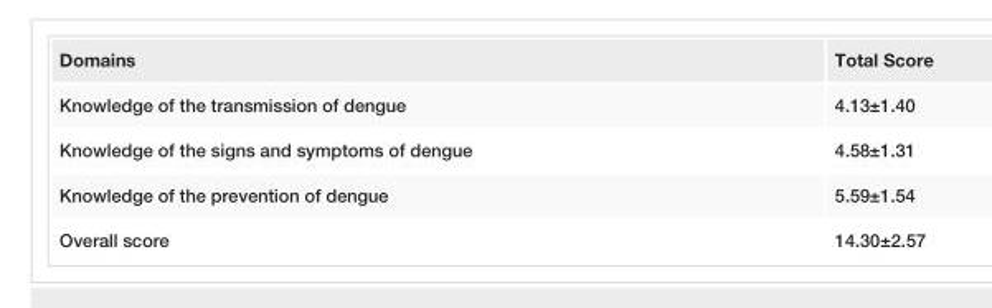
<table><tbody><tr><td>Domains</td><td>Total Score</td></tr><tr><td>Knowledge of the transmission of dengue</td><td>4.13±1.40</td></tr><tr><td>Knowledge of the signs and symptoms of dengue</td><td>4.58±1.31</td></tr><tr><td>Knowledge of the prevention of dengue</td><td>5.59±1.54</td></tr><tr><td>Overall score</td><td>14.30±2.57</td></tr></tbody></table>